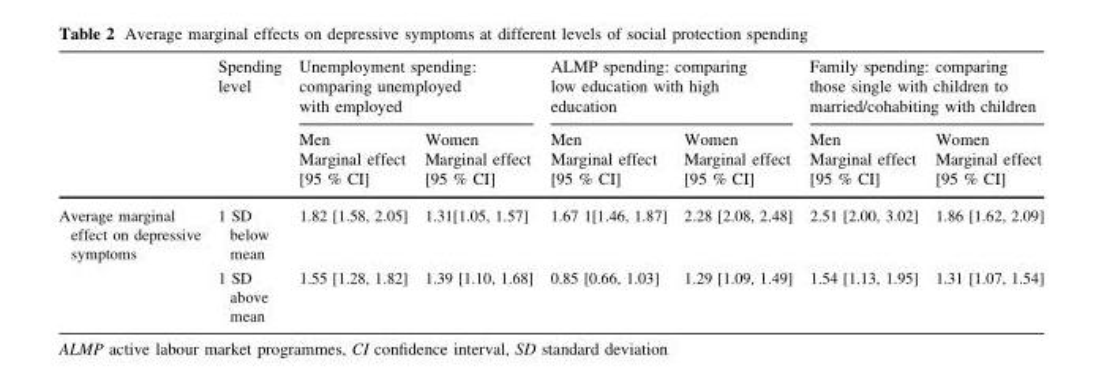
<table><thead><tr><td rowspan="3"></td><td rowspan="3">Spending level</td><td colspan="2">Unemployment spending: comparing unemployed with employed</td><td colspan="2">ALMP spending: comparing low education with high education</td><td colspan="2">Family spending: comparing those single with children to married/cohabiting with children</td></tr><tr><td rowspan="2">Men Marginal effect [95 % CI]</td><td rowspan="2">Women Marginal effect [95 % CI]</td><td rowspan="2">Men Marginal effect [95 % CI]</td><td rowspan="2">Women Marginal effect [95 % CI]</td><td rowspan="2">Men Marginal effect [95 % CI]</td><td rowspan="2">Women Marginal effect [95 % CI]</td></tr><tr></tr></thead><tbody><tr><td rowspan="2">Average marginal effect on depressive symptoms</td><td>1 SD below mean</td><td>1.82 [1.58, 2.05]</td><td>1.31[1.05, 1.57]</td><td>1.67 1[1.46, 1.87]</td><td>2.28 [2.08, 2.48]</td><td>2.51 [2.00, 3.02]</td><td>1.86 [1.62, 2.09]</td></tr><tr><td>1 SD above mean</td><td>1.55 [1.28, 1.82]</td><td>1.39 [1.10, 1.68]</td><td>0.85 [0.66, 1.03]</td><td>1.29 [1.09, 1.49]</td><td>1.54 [1.13, 1.95]</td><td>1.31 [1.07, 1.54]</td></tr></tbody></table>